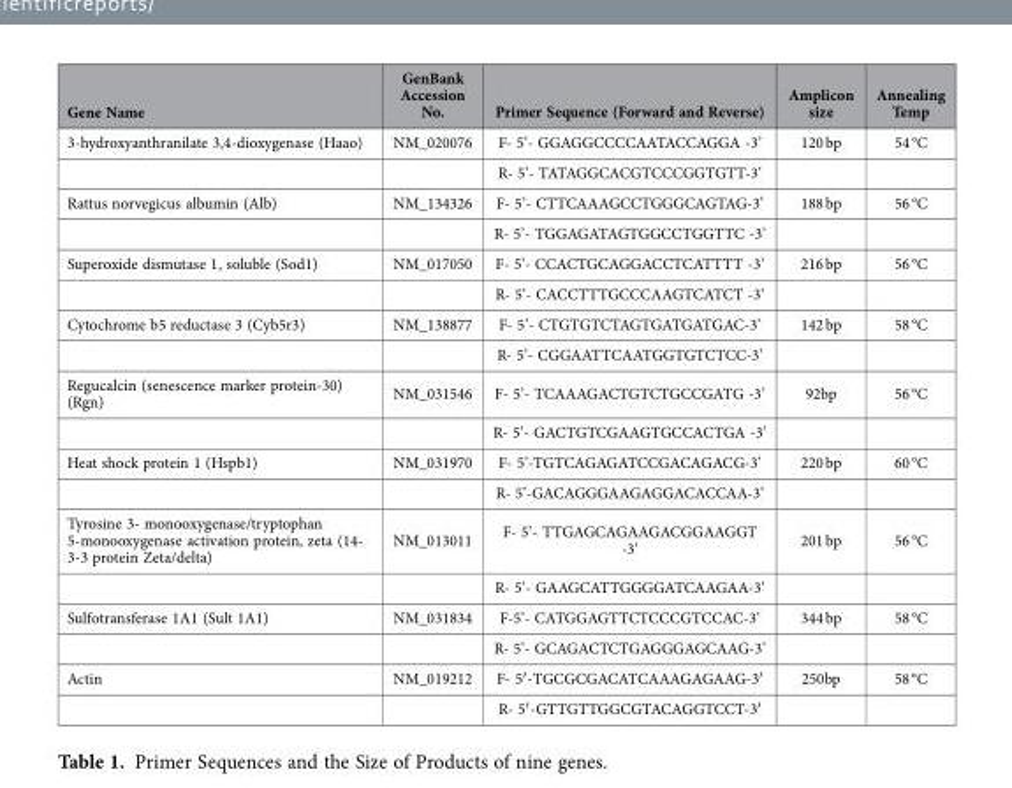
<table><thead><tr><td>Gene Name</td><td>GenBank Accession No.</td><td>Primer Sequence (Forward and Reverse)</td><td>Amplicon size</td><td>Annealing Temp</td></tr></thead><tbody><tr><td rowspan="2">3-hydroxyanthranilate 3,4-dioxygenase (Haao)</td><td>NM_020076</td><td>F- 5’- GGAGGCCCCAATACCAGGA -3’</td><td>120 bp</td><td>54 °C</td></tr><tr><td></td><td>R- 5’- TATAGGCACGTCCCGGTGTT-3’</td><td></td><td></td></tr><tr><td rowspan="2">Rattus norvegicus albumin (Alb)</td><td>NM_134326</td><td>F- 5’- CTTCAAAGCCTGGGCAGTAG-3’</td><td>188 bp</td><td>56 °C</td></tr><tr><td></td><td>R- 5’- TGGAGATAGTGGCCTGGTTC -3’</td><td></td><td></td></tr><tr><td rowspan="2">Superoxide dismutase 1, soluble (Sod1)</td><td>NM_017050</td><td>F- 5’- CCACTGCAGGACCTCATTTT -3’</td><td>216 bp</td><td>56 °C</td></tr><tr><td></td><td>R- 5’- CACCTTTGCCCAAGTCATCT -3’</td><td></td><td></td></tr><tr><td rowspan="2">Cytochrome b5 reductase 3 (Cyb5r3)</td><td>NM_138877</td><td>F- 5’- CTGTGTCTAGTGATGATGAC-3’</td><td>142 bp</td><td>58 °C</td></tr><tr><td></td><td>R- 5’- CGGAATTCAATGGTGTCTCC-3’</td><td></td><td></td></tr><tr><td rowspan="2">Regucalcin (senescence marker protein-30) (Rgn)</td><td>NM_031546</td><td>F- 5’- TCAAAGACTGTCTGCCGATG -3’</td><td>92bp</td><td>56 °C</td></tr><tr><td></td><td>R- 5’- GACTGTCGAAGTGCCACTGA -3’</td><td></td><td></td></tr><tr><td rowspan="2">Heat shock protein 1 (Hspb1)</td><td>NM_031970</td><td>F- 5’-TGTCAGAGATCCGACAGACG-3’</td><td>220 bp</td><td>60 °C</td></tr><tr><td></td><td>R- 5’-GACAGGGAAGAGGACACCAA-3’</td><td></td><td></td></tr><tr><td rowspan="2">Tyrosine 3- monooxygenase/tryptophan 5-monooxygenase activation protein, zeta (14- 3-3 protein Zeta/delta)</td><td>NM_013011</td><td>F- 5’- TTGAGCAGAAGACGGAAGGT -3’</td><td>201 bp</td><td>56 °C</td></tr><tr><td></td><td>R- 5’- GAAGCATTGGGGATCAAGAA-3’</td><td></td><td></td></tr><tr><td rowspan="2">Sulfotransferase 1A1 (Sult 1A1)</td><td>NM_031834</td><td>F-5’- CATGGAGTTCTCCCGTCCAC-3’</td><td>344 bp</td><td>58 °C</td></tr><tr><td></td><td>R- 5’- GCAGACTCTGAGGGAGCAAG-3’</td><td></td><td></td></tr><tr><td rowspan="2">Actin</td><td>NM_019212</td><td>F- 5′ -TGCGCGACATCAAAGAGAAG-3′</td><td>250bp</td><td>58 °C</td></tr><tr><td></td><td>R- 5′ -GTTGTTGGCGTACAGGTCCT-3′</td><td></td><td></td></tr></tbody></table>